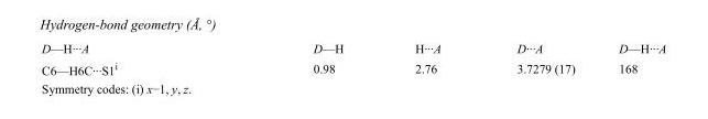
<table><tbody><tr><td>D—H···A</td><td>D—H</td><td>H···A</td><td>D···A</td><td>D—H···A</td></tr><tr><td>C6—H6C···S1<sup>i</sup></td><td>0.98</td><td>2.76</td><td>3.7279 (17)</td><td>168</td></tr></tbody></table>